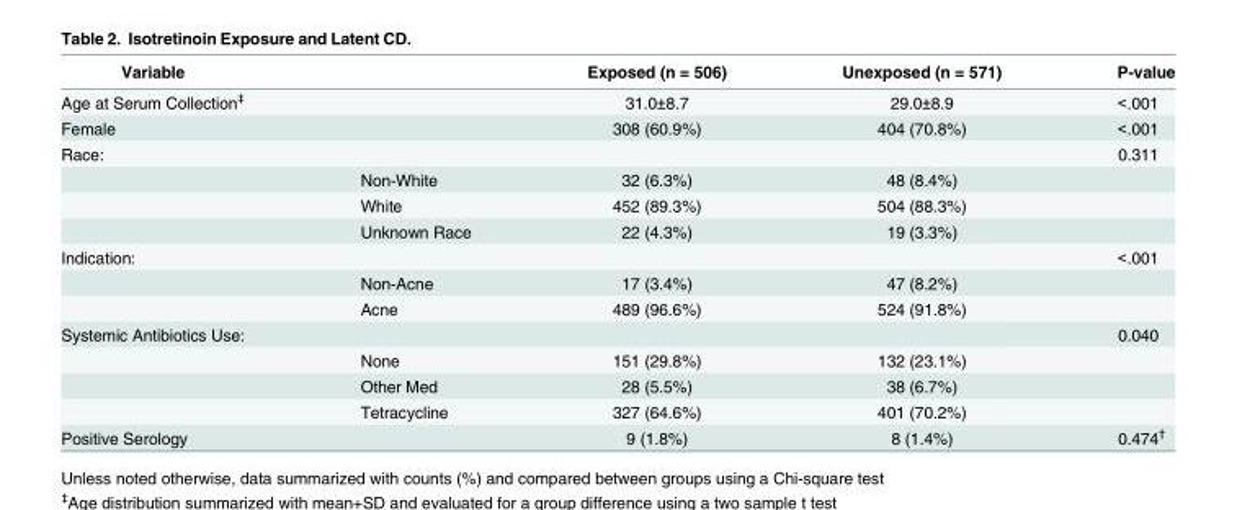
<table><thead><tr><td>Variable</td><td></td><td>Exposed (n = 506)</td><td>Unexposed (n = 571)</td><td>P-value</td></tr></thead><tbody><tr><td>Age at Serum Collection<sup>‡</sup></td><td></td><td>31.0±8.7</td><td>29.0±8.9</td><td>&lt;.001</td></tr><tr><td>Female</td><td></td><td>308 (60.9%)</td><td>404 (70.8%)</td><td>&lt;.001</td></tr><tr><td rowspan="4">Race:</td><td></td><td></td><td></td><td>0.311</td></tr><tr><td>Non-White</td><td>32 (6.3%)</td><td>48 (8.4%)</td><td></td></tr><tr><td>White</td><td>452 (89.3%)</td><td>504 (88.3%)</td><td></td></tr><tr><td>Unknown Race</td><td>22 (4.3%)</td><td>19 (3.3%)</td><td></td></tr><tr><td rowspan="3">Indication:</td><td></td><td></td><td></td><td>&lt;.001</td></tr><tr><td>Non-Acne</td><td>17 (3.4%)</td><td>47 (8.2%)</td><td></td></tr><tr><td>Acne</td><td>489 (96.6%)</td><td>524 (91.8%)</td><td></td></tr><tr><td rowspan="4">Systemic Antibiotics Use:</td><td></td><td></td><td></td><td>0.040</td></tr><tr><td>None</td><td>151 (29.8%)</td><td>132 (23.1%)</td><td></td></tr><tr><td>Other Med</td><td>28 (5.5%)</td><td>38 (6.7%)</td><td></td></tr><tr><td>Tetracycline</td><td>327 (64.6%)</td><td>401 (70.2%)</td><td></td></tr><tr><td>Positive Serology</td><td></td><td>9 (1.8%)</td><td>8 (1.4%)</td><td>0.474<sup>†</sup></td></tr></tbody></table>